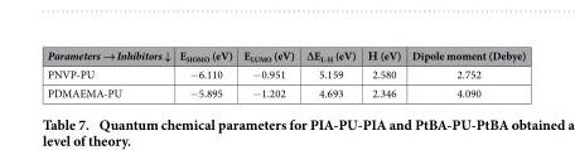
<table><thead><tr><td>Parameters → Inhibitors ↓</td><td>E<sub>HOMO</sub> (eV)</td><td>E<sub>LUMO</sub> (eV)</td><td>∆ E<sub>L-H</sub> (eV)</td><td>Η (eV)</td><td>Dipole moment (Debye)</td></tr></thead><tbody><tr><td>PNVP-PU</td><td>− 6.110</td><td>− 0.951</td><td>5.159</td><td>2.580</td><td>2.752</td></tr><tr><td>PDMAEMA-PU</td><td>− 5.895</td><td>− 1.202</td><td>4.693</td><td>2.346</td><td>4.090</td></tr></tbody></table>